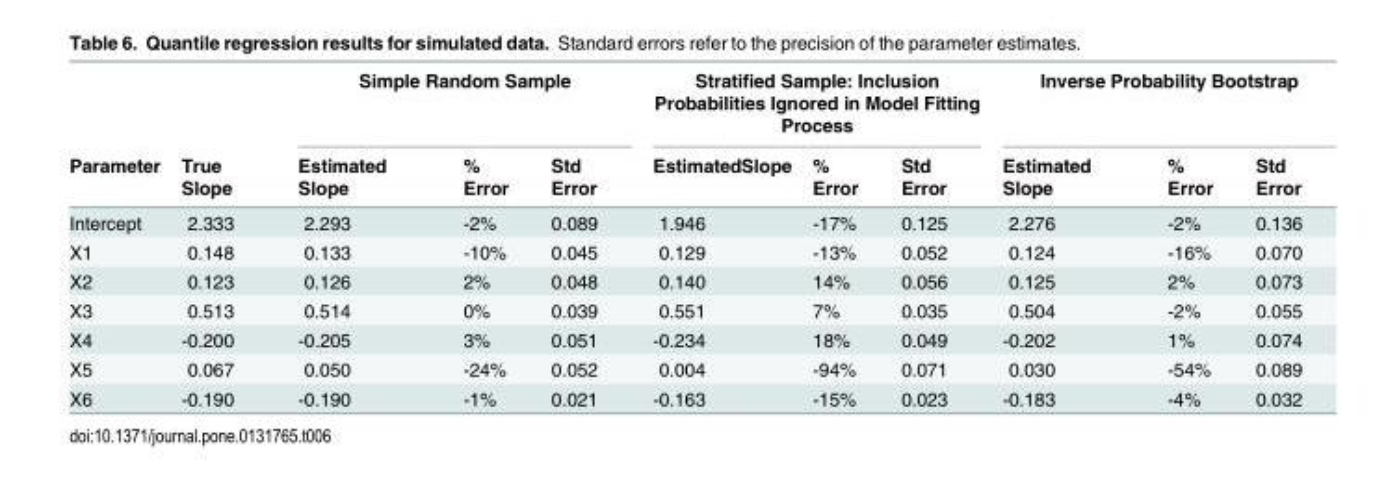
<table><thead><tr><td rowspan="2">Parameter</td><td rowspan="2">True Slope</td><td colspan="3">Simple Random Sample</td><td colspan="3">Stratified Sample: Inclusion Probabilities Ignored in Model Fitting Process</td><td colspan="3">Inverse Probability Bootstrap</td></tr><tr><td>Estimated Slope</td><td>% Error</td><td>Std Error</td><td>EstimatedSlope</td><td>% Error</td><td>Std Error</td><td>Estimated Slope</td><td>% Error</td><td>Std Error</td></tr></thead><tbody><tr><td>Intercept</td><td>2.333</td><td>2.293</td><td>-2%</td><td>0.089</td><td>1.946</td><td>-17%</td><td>0.125</td><td>2.276</td><td>-2%</td><td>0.136</td></tr><tr><td>X1</td><td>0.148</td><td>0.133</td><td>-10%</td><td>0.045</td><td>0.129</td><td>-13%</td><td>0.052</td><td>0.124</td><td>-16%</td><td>0.070</td></tr><tr><td>X2</td><td>0.123</td><td>0.126</td><td>2%</td><td>0.048</td><td>0.140</td><td>14%</td><td>0.056</td><td>0.125</td><td>2%</td><td>0.073</td></tr><tr><td>X3</td><td>0.513</td><td>0.514</td><td>0%</td><td>0.039</td><td>0.551</td><td>7%</td><td>0.035</td><td>0.504</td><td>-2%</td><td>0.055</td></tr><tr><td>X4</td><td>-0.200</td><td>-0.205</td><td>3%</td><td>0.051</td><td>-0.234</td><td>18%</td><td>0.049</td><td>-0.202</td><td>1%</td><td>0.074</td></tr><tr><td>X5</td><td>0.067</td><td>0.050</td><td>-24%</td><td>0.052</td><td>0.004</td><td>-94%</td><td>0.071</td><td>0.030</td><td>-54%</td><td>0.089</td></tr><tr><td>X6</td><td>-0.190</td><td>-0.190</td><td>-1%</td><td>0.021</td><td>-0.163</td><td>-15%</td><td>0.023</td><td>-0.183</td><td>-4%</td><td>0.032</td></tr></tbody></table>